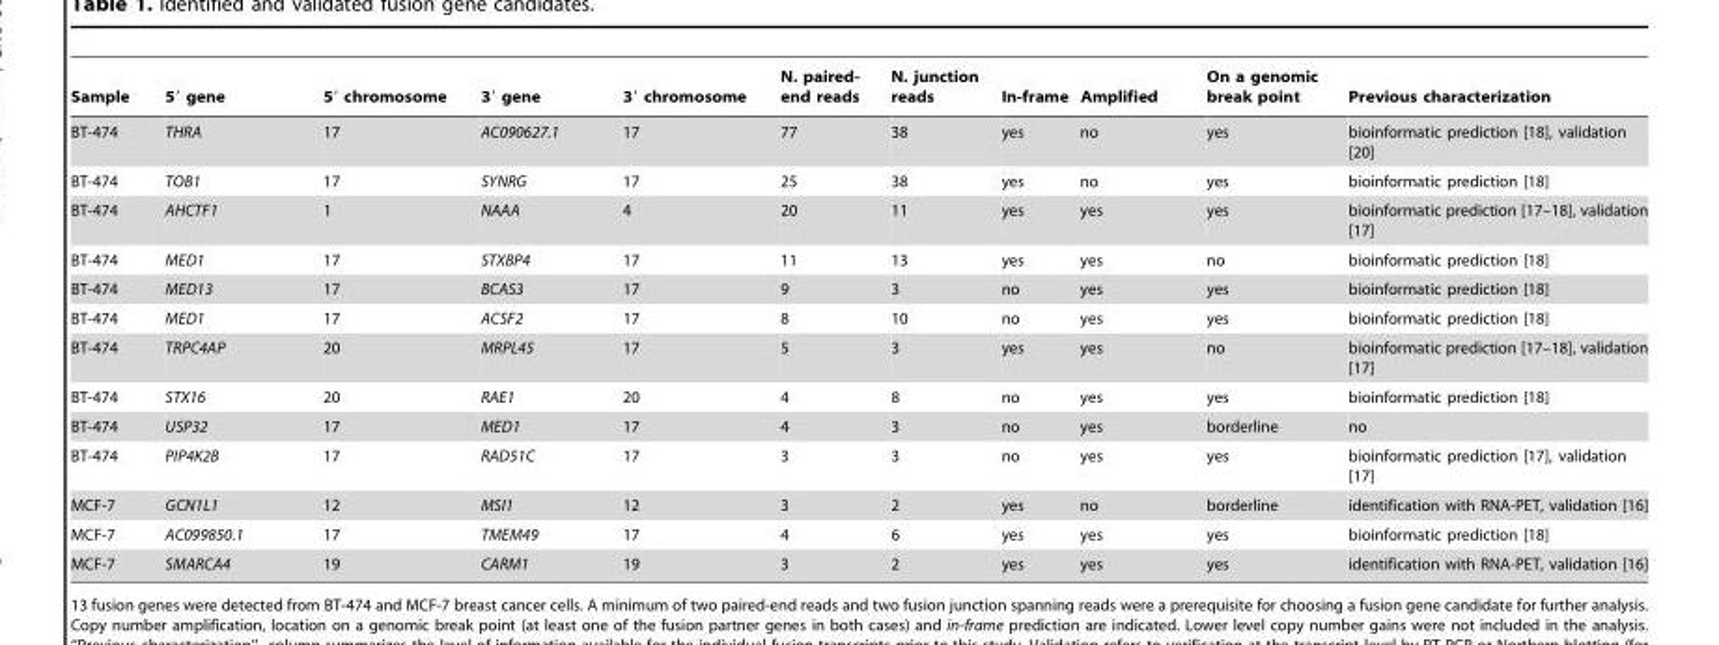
<table><thead><tr><td>Sample</td><td>5′ gene</td><td>5′ chromosome</td><td>3′ gene</td><td>3′ chromosome</td><td>N. paired- end reads</td><td>N. junction reads</td><td>In-frame</td><td>Amplified</td><td>On a genomic break point</td><td>Previous characterization</td></tr></thead><tbody><tr><td>BT-474</td><td>THRA</td><td>17</td><td>AC090627.1</td><td>17</td><td>77</td><td>38</td><td>yes</td><td>no</td><td>yes</td><td>bioinformatic prediction [18], validation [20]</td></tr><tr><td>BT-474</td><td>TOB1</td><td>17</td><td>SYNRG</td><td>17</td><td>25</td><td>38</td><td>yes</td><td>no</td><td>yes</td><td>bioinformatic prediction [18]</td></tr><tr><td>BT-474</td><td>AHCTF1</td><td>1</td><td>NAAA</td><td>4</td><td>20</td><td>11</td><td>yes</td><td>yes</td><td>yes</td><td>bioinformatic prediction [17–18], validation [17]</td></tr><tr><td>BT-474</td><td>MED1</td><td>17</td><td>STXBP4</td><td>17</td><td>11</td><td>13</td><td>yes</td><td>yes</td><td>no</td><td>bioinformatic prediction [18]</td></tr><tr><td>BT-474</td><td>MED13</td><td>17</td><td>BCAS3</td><td>17</td><td>9</td><td>3</td><td>no</td><td>yes</td><td>yes</td><td>bioinformatic prediction [18]</td></tr><tr><td>BT-474</td><td>MED1</td><td>17</td><td>ACSF2</td><td>17</td><td>8</td><td>10</td><td>no</td><td>yes</td><td>yes</td><td>bioinformatic prediction [18]</td></tr><tr><td>BT-474</td><td>TRPC4AP</td><td>20</td><td>MRPL45</td><td>17</td><td>5</td><td>3</td><td>yes</td><td>yes</td><td>no</td><td>bioinformatic prediction [17–18], validation [17]</td></tr><tr><td>BT-474</td><td>STX16</td><td>20</td><td>RAE1</td><td>20</td><td>4</td><td>8</td><td>no</td><td>yes</td><td>yes</td><td>bioinformatic prediction [18]</td></tr><tr><td>BT-474</td><td>USP32</td><td>17</td><td>MED1</td><td>17</td><td>4</td><td>3</td><td>no</td><td>yes</td><td>borderline</td><td>no</td></tr><tr><td>BT-474</td><td>PIP4K2B</td><td>17</td><td>RAD51C</td><td>17</td><td>3</td><td>3</td><td>no</td><td>yes</td><td>yes</td><td>bioinformatic prediction [17], validation [17]</td></tr><tr><td>MCF-7</td><td>GCN1L1</td><td>12</td><td>MSI1</td><td>12</td><td>3</td><td>2</td><td>yes</td><td>no</td><td>borderline</td><td>identification with RNA-PET, validation [16]</td></tr><tr><td>MCF-7</td><td>AC099850.1</td><td>17</td><td>TMEM49</td><td>17</td><td>4</td><td>6</td><td>yes</td><td>yes</td><td>yes</td><td>bioinformatic prediction [18]</td></tr><tr><td>MCF-7</td><td>SMARCA4</td><td>19</td><td>CARM1</td><td>19</td><td>3</td><td>2</td><td>yes</td><td>yes</td><td>yes</td><td>identification with RNA-PET, validation [16]</td></tr></tbody></table>